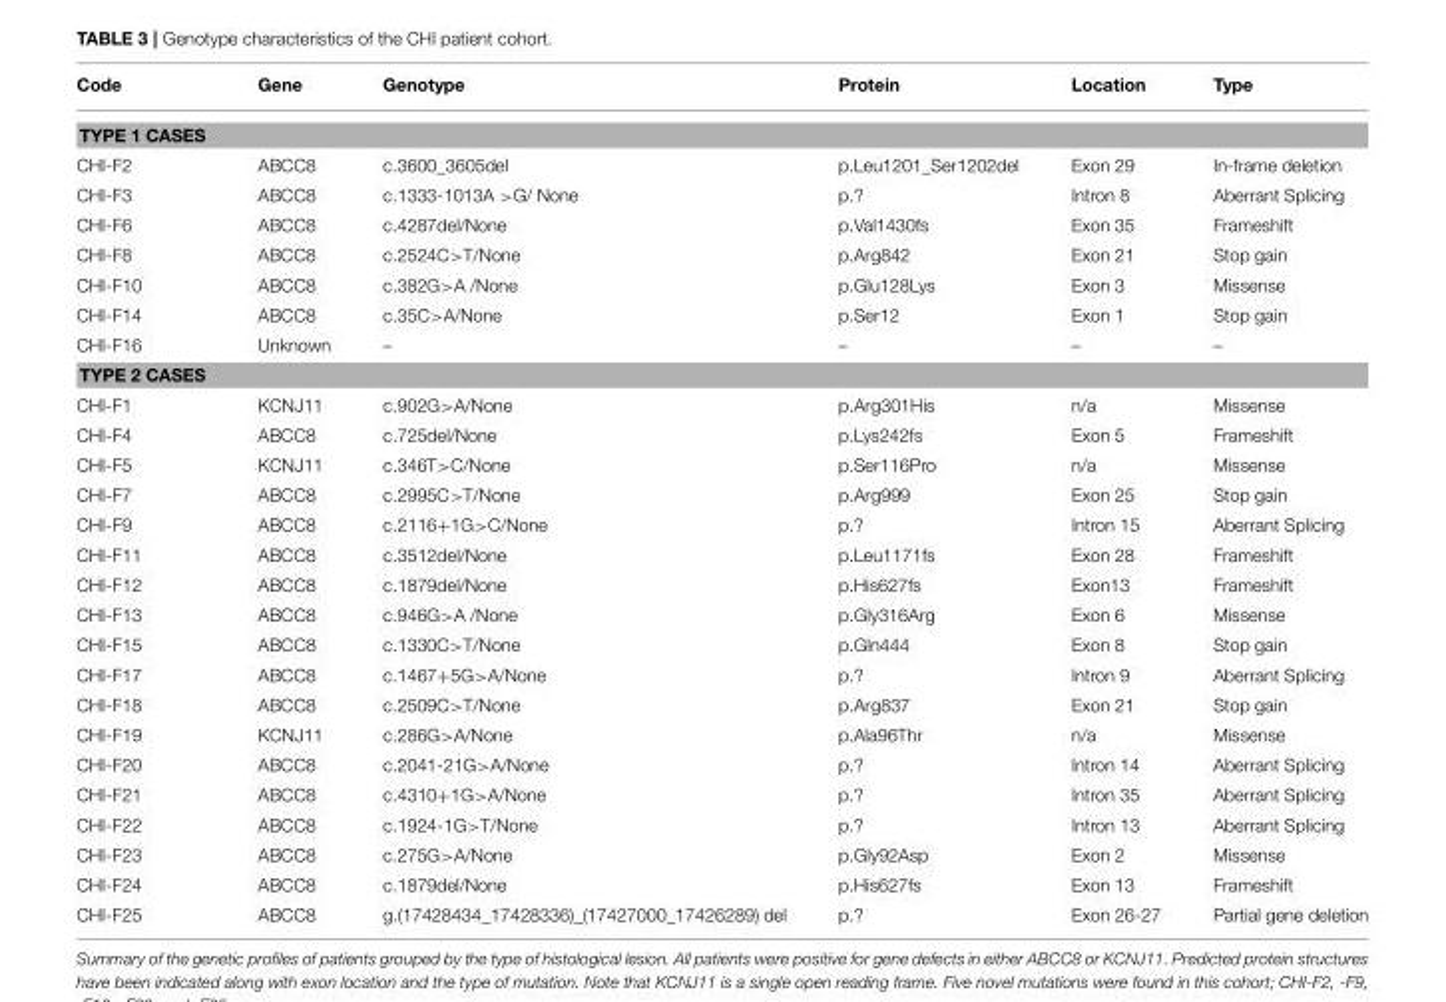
<table><thead><tr><td>Code</td><td>Gene</td><td>Genotype</td><td>Protein</td><td>Location</td><td>Type</td></tr></thead><tbody><tr><td colspan="6">TYPE 1 CASES</td></tr><tr><td>CHI-F2</td><td>ABCC8</td><td>c.3600_3605del</td><td>p.Leu1201_Ser1202del</td><td>Exon 29</td><td>In-frame deletion</td></tr><tr><td>CHI-F3</td><td>ABCC8</td><td>c.1333-1013A &gt;G/ None</td><td>p.?</td><td>Intron 8</td><td>Aberrant Splicing</td></tr><tr><td>CHI-F6</td><td>ABCC8</td><td>c.4287del/None</td><td>p.Val1430fs</td><td>Exon 35</td><td>Frameshift</td></tr><tr><td>CHI-F8</td><td>ABCC8</td><td>c.2524C&gt;T/None</td><td>p.Arg842</td><td>Exon 21</td><td>Stop gain</td></tr><tr><td>CHI-F10</td><td>ABCC8</td><td>c.382G&gt;A /None</td><td>p.Glu128Lys</td><td>Exon 3</td><td>Missense</td></tr><tr><td>CHI-F14</td><td>ABCC8</td><td>c.35C&gt;A/None</td><td>p.Ser12</td><td>Exon 1</td><td>Stop gain</td></tr><tr><td>CHI-F16</td><td>Unknown</td><td>–</td><td>–</td><td>–</td><td>–</td></tr><tr><td colspan="6">TYPE 2 CASES</td></tr><tr><td>CHI-F1</td><td>KCNJ11</td><td>c.902G&gt;A/None</td><td>p.Arg301His</td><td>n/a</td><td>Missense</td></tr><tr><td>CHI-F4</td><td>ABCC8</td><td>c.725del/None</td><td>p.Lys242fs</td><td>Exon 5</td><td>Frameshift</td></tr><tr><td>CHI-F5</td><td>KCNJ11</td><td>c.346T&gt;C/None</td><td>p.Ser116Pro</td><td>n/a</td><td>Missense</td></tr><tr><td>CHI-F7</td><td>ABCC8</td><td>c.2995C&gt;T/None</td><td>p.Arg999</td><td>Exon 25</td><td>Stop gain</td></tr><tr><td>CHI-F9</td><td>ABCC8</td><td>c.2116+1G&gt;C/None</td><td>p.?</td><td>Intron 15</td><td>Aberrant Splicing</td></tr><tr><td>CHI-F11</td><td>ABCC8</td><td>c.3512del/None</td><td>p.Leu1171fs</td><td>Exon 28</td><td>Frameshift</td></tr><tr><td>CHI-F12</td><td>ABCC8</td><td>c.1879del/None</td><td>p.His627fs</td><td>Exon13</td><td>Frameshift</td></tr><tr><td>CHI-F13</td><td>ABCC8</td><td>c.946G&gt;A /None</td><td>p.Gly316Arg</td><td>Exon 6</td><td>Missense</td></tr><tr><td>CHI-F15</td><td>ABCC8</td><td>c.1330C&gt;T/None</td><td>p.Gln444</td><td>Exon 8</td><td>Stop gain</td></tr><tr><td>CHI-F17</td><td>ABCC8</td><td>c.1467+5G&gt;A/None</td><td>p.?</td><td>Intron 9</td><td>Aberrant Splicing</td></tr><tr><td>CHI-F18</td><td>ABCC8</td><td>c.2509C&gt;T/None</td><td>p.Arg837</td><td>Exon 21</td><td>Stop gain</td></tr><tr><td>CHI-F19</td><td>KCNJ11</td><td>c.286G&gt;A/None</td><td>p.Ala96Thr</td><td>n/a</td><td>Missense</td></tr><tr><td>CHI-F20</td><td>ABCC8</td><td>c.2041-21G&gt;A/None</td><td>p.?</td><td>Intron 14</td><td>Aberrant Splicing</td></tr><tr><td>CHI-F21</td><td>ABCC8</td><td>c.4310+1G&gt;A/None</td><td>p.?</td><td>Intron 35</td><td>Aberrant Splicing</td></tr><tr><td>CHI-F22</td><td>ABCC8</td><td>c.1924-1G&gt;T/None</td><td>p.?</td><td>Intron 13</td><td>Aberrant Splicing</td></tr><tr><td>CHI-F23</td><td>ABCC8</td><td>c.275G&gt;A/None</td><td>p.Gly92Asp</td><td>Exon 2</td><td>Missense</td></tr><tr><td>CHI-F24</td><td>ABCC8</td><td>c.1879del/None</td><td>p.His627fs</td><td>Exon 13</td><td>Frameshift</td></tr><tr><td>CHI-F25</td><td>ABCC8</td><td>g.(17428434_17428336)_(17427000_17426289) del</td><td>p.?</td><td>Exon 26-27</td><td>Partial gene deletion</td></tr></tbody></table>